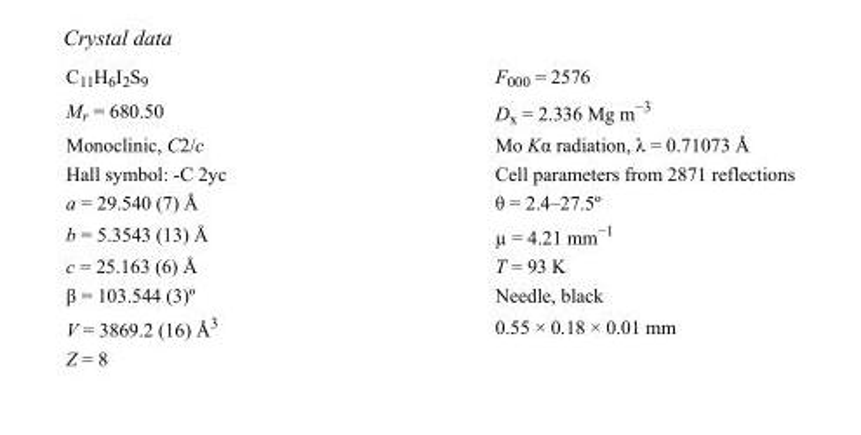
<table><tbody><tr><td>C<sub>11</sub>H<sub>6</sub>I<sub>2</sub>S<sub>9</sub></td><td>F000 = 2576</td></tr><tr><td>M<sub>r</sub> = 680.50</td><td>D<sub>x</sub> = 2.336 Mg m<sup>−3</sup></td></tr><tr><td>Monoclinic, C2/c</td><td>Mo Kα radiation, λ = 0.71073 Å</td></tr><tr><td>Hall symbol: -C 2yc</td><td>Cell parameters from 2871 reflections</td></tr><tr><td>a = 29.540 (7) Å</td><td>θ = 2.4–27.5º</td></tr><tr><td>b = 5.3543 (13) Å</td><td>µ = 4.21 mm<sup>−1</sup></td></tr><tr><td>c = 25.163 (6) Å</td><td>T = 93 K</td></tr><tr><td>β = 103.544 (3)º</td><td>Needle, black</td></tr><tr><td>V = 3869.2 (16) Å<sup>3</sup></td><td>0.55 × 0.18 × 0.01 mm</td></tr><tr><td>Z = 8</td><td></td></tr></tbody></table>